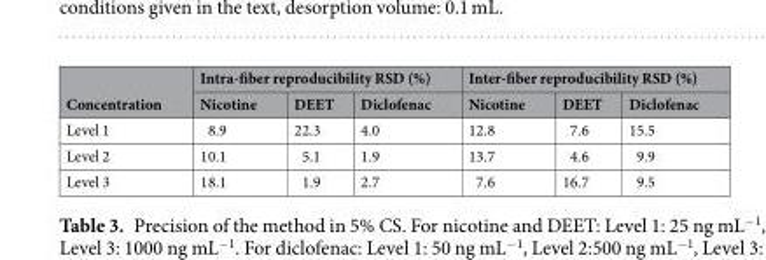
<table><thead><tr><td rowspan="2">Concentration</td><td colspan="3">Intra-fiber reproducibility RSD (%)</td><td colspan="3">Inter-fiber reproducibility RSD (%)</td></tr><tr><td>Nicotine</td><td>DEET</td><td>Diclofenac</td><td>Nicotine</td><td>DEET</td><td>Diclofenac</td></tr></thead><tbody><tr><td>Level 1</td><td>8.9</td><td>22.3</td><td>4.0</td><td>12.8</td><td>7.6</td><td>15.5</td></tr><tr><td>Level 2</td><td>10.1</td><td>5.1</td><td>1.9</td><td>13.7</td><td>4.6</td><td>9.9</td></tr><tr><td>Level 3</td><td>18.1</td><td>1.9</td><td>2.7</td><td>7.6</td><td>16.7</td><td>9.5</td></tr></tbody></table>